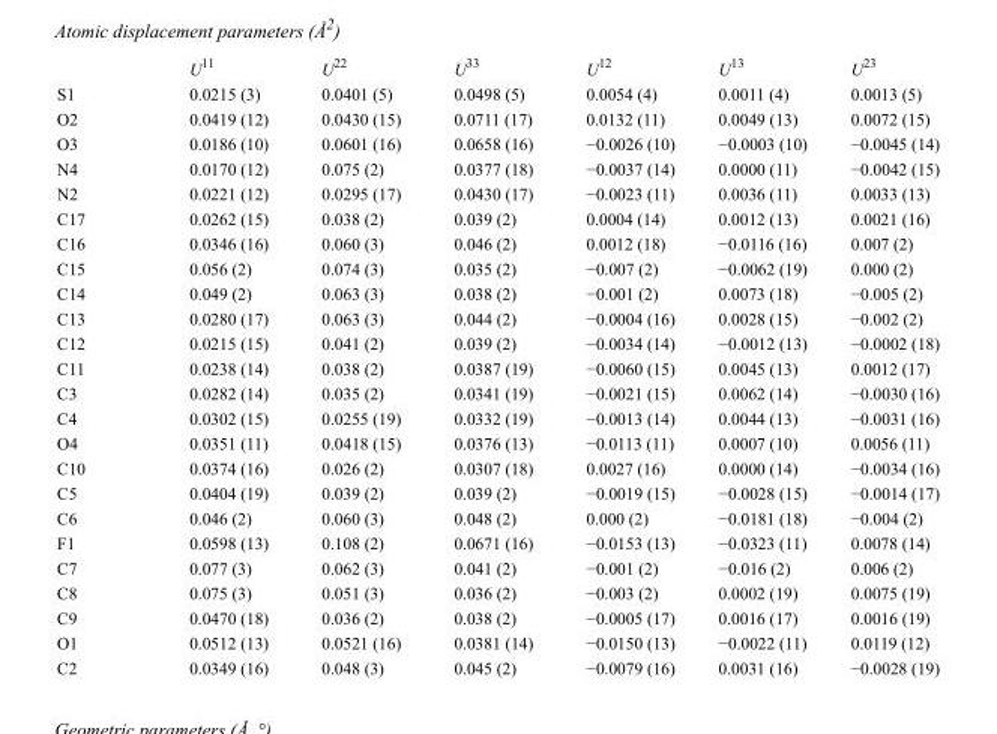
<table><thead><tr><td></td><td>U<sup>11</sup></td><td>U<sup>22</sup></td><td>U<sup>33</sup></td><td>U<sup>12</sup></td><td>U<sup>13</sup></td><td>U<sup>23</sup></td></tr></thead><tbody><tr><td>S1</td><td>0.0215 (3)</td><td>0.0401 (5)</td><td>0.0498 (5)</td><td>0.0054 (4)</td><td>0.0011 (4)</td><td>0.0013 (5)</td></tr><tr><td>O2</td><td>0.0419 (12)</td><td>0.0430 (15)</td><td>0.0711 (17)</td><td>0.0132 (11)</td><td>0.0049 (13)</td><td>0.0072 (15)</td></tr><tr><td>O3</td><td>0.0186 (10)</td><td>0.0601 (16)</td><td>0.0658 (16)</td><td>−0.0026 (10)</td><td>−0.0003 (10)</td><td>−0.0045 (14)</td></tr><tr><td>N4</td><td>0.0170 (12)</td><td>0.075 (2)</td><td>0.0377 (18)</td><td>−0.0037 (14)</td><td>0.0000 (11)</td><td>−0.0042 (15)</td></tr><tr><td>N2</td><td>0.0221 (12)</td><td>0.0295 (17)</td><td>0.0430 (17)</td><td>−0.0023 (11)</td><td>0.0036 (11)</td><td>0.0033 (13)</td></tr><tr><td>C17</td><td>0.0262 (15)</td><td>0.038 (2)</td><td>0.039 (2)</td><td>0.0004 (14)</td><td>0.0012 (13)</td><td>0.0021 (16)</td></tr><tr><td>C16</td><td>0.0346 (16)</td><td>0.060 (3)</td><td>0.046 (2)</td><td>0.0012 (18)</td><td>−0.0116 (16)</td><td>0.007 (2)</td></tr><tr><td>C15</td><td>0.056 (2)</td><td>0.074 (3)</td><td>0.035 (2)</td><td>−0.007 (2)</td><td>−0.0062 (19)</td><td>0.000 (2)</td></tr><tr><td>C14</td><td>0.049 (2)</td><td>0.063 (3)</td><td>0.038 (2)</td><td>−0.001 (2)</td><td>0.0073 (18)</td><td>−0.005 (2)</td></tr><tr><td>C13</td><td>0.0280 (17)</td><td>0.063 (3)</td><td>0.044 (2)</td><td>−0.0004 (16)</td><td>0.0028 (15)</td><td>−0.002 (2)</td></tr><tr><td>C12</td><td>0.0215 (15)</td><td>0.041 (2)</td><td>0.039 (2)</td><td>−0.0034 (14)</td><td>−0.0012 (13)</td><td>−0.0002 (18)</td></tr><tr><td>C11</td><td>0.0238 (14)</td><td>0.038 (2)</td><td>0.0387 (19)</td><td>−0.0060 (15)</td><td>0.0045 (13)</td><td>0.0012 (17)</td></tr><tr><td>C3</td><td>0.0282 (14)</td><td>0.035 (2)</td><td>0.0341 (19)</td><td>−0.0021 (15)</td><td>0.0062 (14)</td><td>−0.0030 (16)</td></tr><tr><td>C4</td><td>0.0302 (15)</td><td>0.0255 (19)</td><td>0.0332 (19)</td><td>−0.0013 (14)</td><td>0.0044 (13)</td><td>−0.0031 (16)</td></tr><tr><td>O4</td><td>0.0351 (11)</td><td>0.0418 (15)</td><td>0.0376 (13)</td><td>−0.0113 (11)</td><td>0.0007 (10)</td><td>0.0056 (11)</td></tr><tr><td>C10</td><td>0.0374 (16)</td><td>0.026 (2)</td><td>0.0307 (18)</td><td>0.0027 (16)</td><td>0.0000 (14)</td><td>−0.0034 (16)</td></tr><tr><td>C5</td><td>0.0404 (19)</td><td>0.039 (2)</td><td>0.039 (2)</td><td>−0.0019 (15)</td><td>−0.0028 (15)</td><td>−0.0014 (17)</td></tr><tr><td>C6</td><td>0.046 (2)</td><td>0.060 (3)</td><td>0.048 (2)</td><td>0.000 (2)</td><td>−0.0181 (18)</td><td>−0.004 (2)</td></tr><tr><td>F1</td><td>0.0598 (13)</td><td>0.108 (2)</td><td>0.0671 (16)</td><td>−0.0153 (13)</td><td>−0.0323 (11)</td><td>0.0078 (14)</td></tr><tr><td>C7</td><td>0.077 (3)</td><td>0.062 (3)</td><td>0.041 (2)</td><td>−0.001 (2)</td><td>−0.016 (2)</td><td>0.006 (2)</td></tr><tr><td>C8</td><td>0.075 (3)</td><td>0.051 (3)</td><td>0.036 (2)</td><td>−0.003 (2)</td><td>0.0002 (19)</td><td>0.0075 (19)</td></tr><tr><td>C9</td><td>0.0470 (18)</td><td>0.036 (2)</td><td>0.038 (2)</td><td>−0.0005 (17)</td><td>0.0016 (17)</td><td>0.0016 (19)</td></tr><tr><td>O1</td><td>0.0512 (13)</td><td>0.0521 (16)</td><td>0.0381 (14)</td><td>−0.0150 (13)</td><td>−0.0022 (11)</td><td>0.0119 (12)</td></tr><tr><td>C2</td><td>0.0349 (16)</td><td>0.048 (3)</td><td>0.045 (2)</td><td>−0.0079 (16)</td><td>0.0031 (16)</td><td>−0.0028 (19)</td></tr></tbody></table>